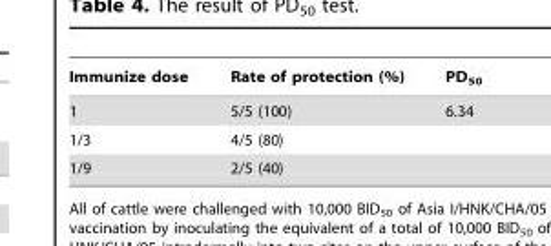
<table><thead><tr><td>Immunize dose</td><td>Rate of protection (%)</td><td>PD<sub>50</sub></td></tr></thead><tbody><tr><td>1</td><td>5/5 (100)</td><td>6.34</td></tr><tr><td>1/3</td><td>4/5 (80)</td><td></td></tr><tr><td>1/9</td><td>2/5 (40)</td><td></td></tr></tbody></table>